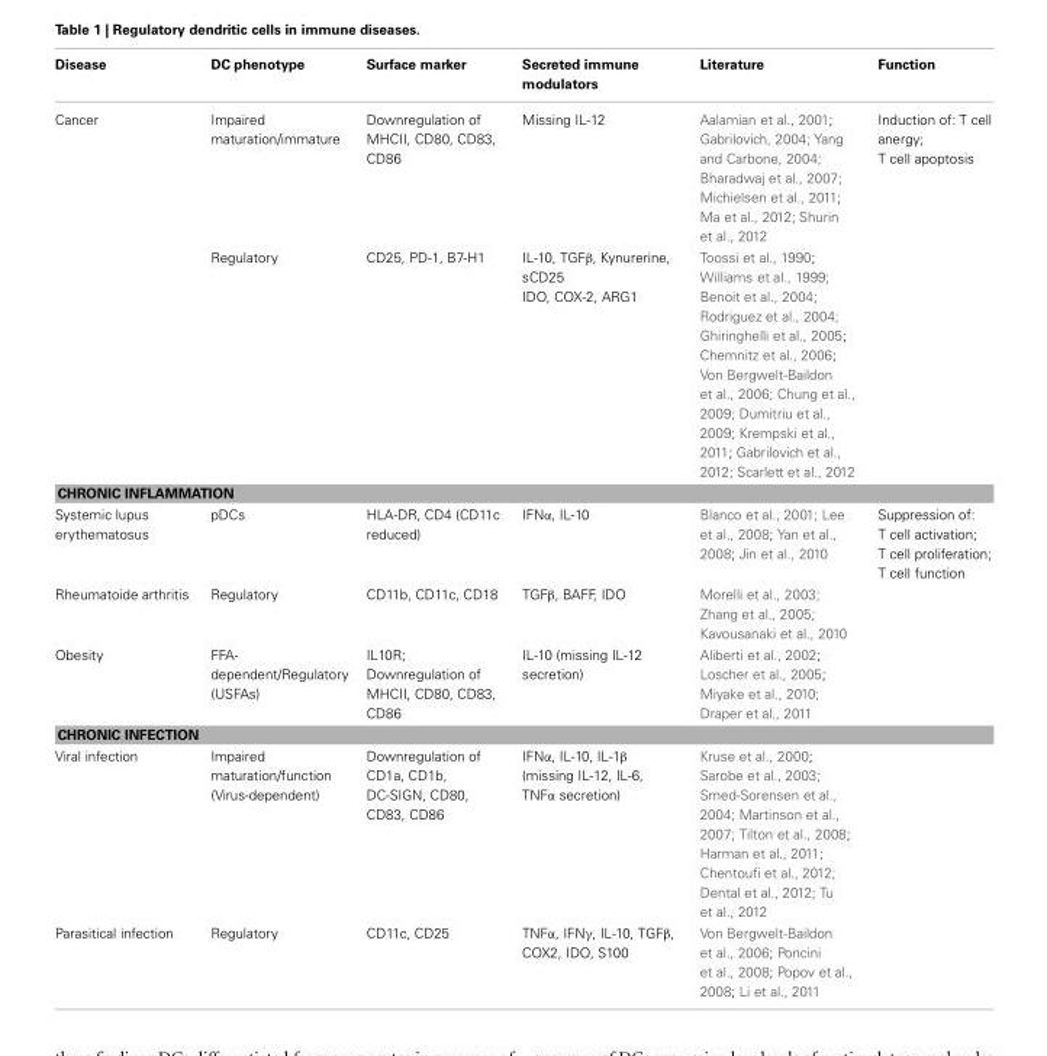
<table><thead><tr><td>Disease</td><td>DC phenotype</td><td>Surface marker</td><td>Secreted immune modulators</td><td>Literature</td><td>Function</td></tr></thead><tbody><tr><td rowspan="2">Cancer</td><td>Impaired maturation/immature</td><td>Downregulation of MHCII, CD80, CD83, CD86</td><td>Missing IL-12</td><td>Aalamian et al., 2001; Gabrilovich, 2004; Yang and Carbone, 2004; Bharadwaj et al., 2007; Michielsen et al., 2011; Ma et al., 2012; Shurin et al., 2012</td><td>Induction of: T cell anergy; T cell apoptosis</td></tr><tr><td>Regulatory</td><td>CD25, PD-1, B7-H1</td><td>IL-10, TGFβ, Kynurerine, sCD25 IDO, COX-2, ARG1</td><td>Toossi et al., 1990; Williams et al., 1999; Benoit et al., 2004; Rodriguez et al., 2004; Ghiringhelli et al., 2005; Chemnitz et al., 2006; Von Bergwelt-Baildon et al., 2006; Chung et al., 2009; Dumitriu et al., 2009; Krempski et al., 2011; Gabrilovich et al., 2012; Scarlett et al., 2012</td><td></td></tr><tr><td colspan="6">CHRONIC INFLAMMATION</td></tr><tr><td>Systemic lupus erythematosus</td><td>pDCs</td><td>HLA-DR, CD4 (CD11c reduced)</td><td>IFNα, IL-10</td><td>Blanco et al., 2001; Lee et al., 2008; Yan et al., 2008; Jin et al., 2010</td><td>Suppression of: T cell activation; T cell proliferation; T cell function</td></tr><tr><td>Rheumatoide arthritis</td><td>Regulatory</td><td>CD11b, CD11c, CD18</td><td>TGFβ, BAFF, IDO</td><td>Morelli et al., 2003; Zhang et al., 2005; Kavousanaki et al., 2010</td><td></td></tr><tr><td>Obesity</td><td>FFA- dependent/Regulatory (USFAs)</td><td>IL10R; Downregulation of MHCII, CD80, CD83, CD86</td><td>IL-10 (missing IL-12 secretion)</td><td>Aliberti et al., 2002; Loscher et al., 2005; Miyake et al., 2010; Draper et al., 2011</td><td></td></tr><tr><td colspan="6">CHRONIC INFECTION</td></tr><tr><td>Viral infection</td><td>Impaired maturation/function (Virus-dependent)</td><td>Downregulation of CD1a, CD1b, DC-SIGN, CD80, CD83, CD86</td><td>IFNα, IL-10, IL-1β (missing IL-12, IL-6, TNFα secretion)</td><td>Kruse et al., 2000; Sarobe et al., 2003; Smed-Sorensen et al., 2004; Martinson et al., 2007; Tilton et al., 2008; Harman et al., 2011; Chentoufi et al., 2012; Dental et al., 2012; Tu et al., 2012</td><td></td></tr><tr><td>Parasitical infection</td><td>Regulatory</td><td>CD11c, CD25</td><td>TNFα, IFNγ, IL-10, TGFβ, COX2, IDO, S100</td><td>Von Bergwelt-Baildon et al., 2006; Poncini et al., 2008; Popov et al., 2008; Li et al., 2011</td><td></td></tr></tbody></table>